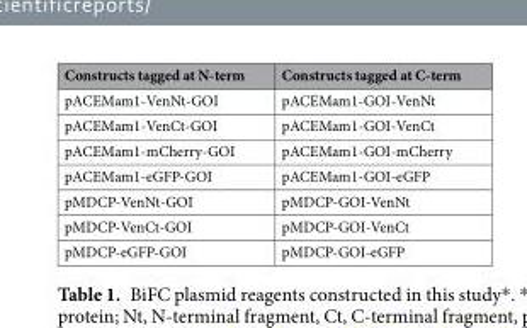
<table><thead><tr><td>Constructs tagged at N-term</td><td>Constructs tagged at C-term</td></tr></thead><tbody><tr><td>pACEMam1-VenNt-GOI</td><td>pACEMam1-GOI-VenNt</td></tr><tr><td>pACEMam1-VenCt-GOI</td><td>pACEMam1-GOI-VenCt</td></tr><tr><td>pACEMam1-mCherry-GOI</td><td>pACEMam1-GOI-mCherry</td></tr><tr><td>pACEMam1-eGFP-GOI</td><td>pACEMam1-GOI-eGFP</td></tr><tr><td>pMDCP-VenNt-GOI</td><td>pMDCP-GOI-VenNt</td></tr><tr><td>pMDCP-VenCt-GOI</td><td>pMDCP-GOI-VenCt</td></tr><tr><td>pMDCP-eGFP-GOI</td><td>pMDCP-GOI-eGFP</td></tr></tbody></table>